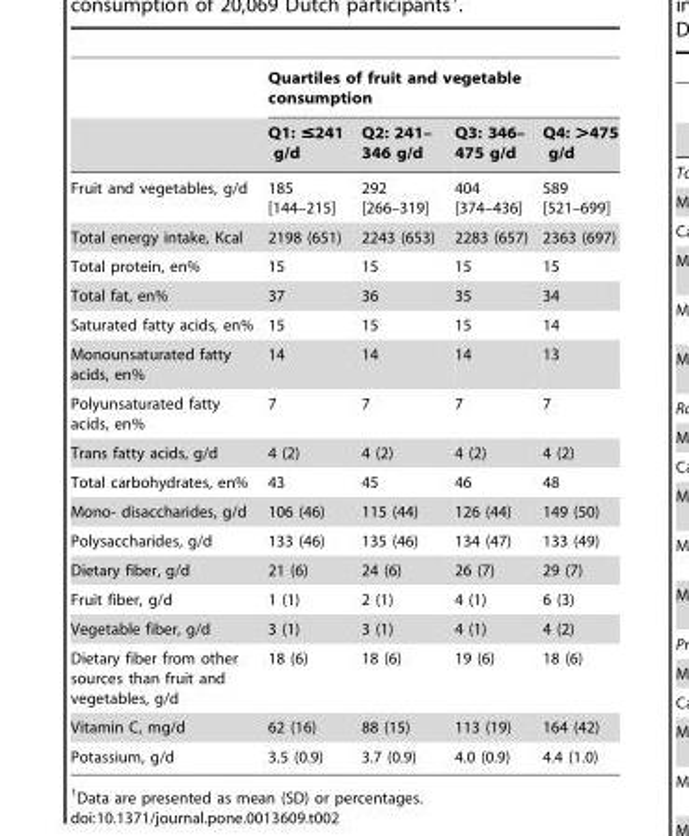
<table><thead><tr><td rowspan="2"></td><td colspan="4">Quartiles of fruit and vegetable consumption</td></tr><tr><td>Q1: ≤241 g/d</td><td>Q2: 241– 346 g/d</td><td>Q3: 346– 475 g/d</td><td>Q4: &gt;475 g/d</td></tr></thead><tbody><tr><td>Fruit and vegetables, g/d</td><td>185 [144–215]</td><td>292 [266–319]</td><td>404 [374–436]</td><td>589 [521–699]</td></tr><tr><td>Total energy intake, Kcal</td><td>2198 (651)</td><td>2243 (653)</td><td>2283 (657)</td><td>2363 (697)</td></tr><tr><td>Total protein, en%</td><td>15</td><td>15</td><td>15</td><td>15</td></tr><tr><td>Total fat, en%</td><td>37</td><td>36</td><td>35</td><td>34</td></tr><tr><td>Saturated fatty acids, en%</td><td>15</td><td>15</td><td>15</td><td>14</td></tr><tr><td>Monounsaturated fatty acids, en%</td><td>14</td><td>14</td><td>14</td><td>13</td></tr><tr><td>Polyunsaturated fatty acids, en%</td><td>7</td><td>7</td><td>7</td><td>7</td></tr><tr><td>Trans fatty acids, g/d</td><td>4 (2)</td><td>4 (2)</td><td>4 (2)</td><td>4 (2)</td></tr><tr><td>Total carbohydrates, en%</td><td>43</td><td>45</td><td>46</td><td>48</td></tr><tr><td>Mono- disaccharides, g/d</td><td>106 (46)</td><td>115 (44)</td><td>126 (44)</td><td>149 (50)</td></tr><tr><td>Polysaccharides, g/d</td><td>133 (46)</td><td>135 (46)</td><td>134 (47)</td><td>133 (49)</td></tr><tr><td>Dietary fiber, g/d</td><td>21 (6)</td><td>24 (6)</td><td>26 (7)</td><td>29 (7)</td></tr><tr><td>Fruit fiber, g/d</td><td>1 (1)</td><td>2 (1)</td><td>4 (1)</td><td>6 (3)</td></tr><tr><td>Vegetable fiber, g/d</td><td>3 (1)</td><td>3 (1)</td><td>4 (1)</td><td>4 (2)</td></tr><tr><td>Dietary fiber from other sources than fruit and vegetables, g/d</td><td>18 (6)</td><td>18 (6)</td><td>19 (6)</td><td>18 (6)</td></tr><tr><td>Vitamin C, mg/d</td><td>62 (16)</td><td>88 (15)</td><td>113 (19)</td><td>164 (42)</td></tr><tr><td>Potassium, g/d</td><td>3.5 (0.9)</td><td>3.7 (0.9)</td><td>4.0 (0.9)</td><td>4.4 (1.0)</td></tr></tbody></table>